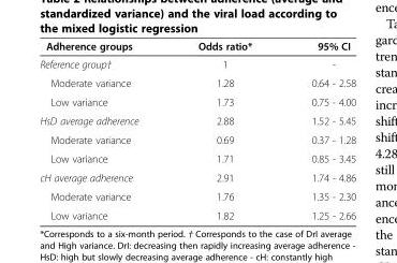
<table><thead><tr><td>Adherence groups</td><td>Odds ratio*</td><td>95% CI</td></tr></thead><tbody><tr><td>Reference group†</td><td>1</td><td>-</td></tr><tr><td>Moderate variance</td><td>1.28</td><td>0.64 - 2.58</td></tr><tr><td>Low variance</td><td>1.73</td><td>0.75 - 4.00</td></tr><tr><td>HsD average adherence</td><td>2.88</td><td>1.52 - 5.45</td></tr><tr><td>Moderate variance</td><td>0.69</td><td>0.37 - 1.28</td></tr><tr><td>Low variance</td><td>1.71</td><td>0.85 - 3.45</td></tr><tr><td>cH average adherence</td><td>2.91</td><td>1.74 - 4.86</td></tr><tr><td>Moderate variance</td><td>1.76</td><td>1.35 - 2.30</td></tr><tr><td>Low variance</td><td>1.82</td><td>1.25 - 2.66</td></tr></tbody></table>